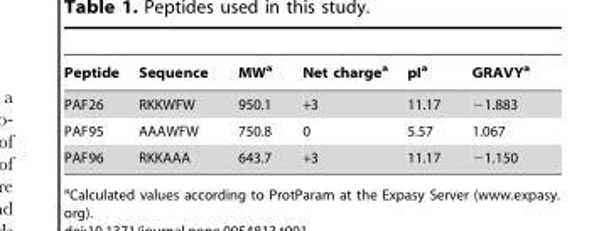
<table><thead><tr><td>Peptide</td><td>Sequence</td><td>MW<sup>a</sup></td><td>Net charge<sup>a</sup></td><td>pI<sup>a</sup></td><td>GRAVY<sup>a</sup></td></tr></thead><tbody><tr><td>PAF26</td><td>RKKWFW</td><td>950.1</td><td>+3</td><td>11.17</td><td>−1.883</td></tr><tr><td>PAF95</td><td>AAAWFW</td><td>750.8</td><td>0</td><td>5.57</td><td>1.067</td></tr><tr><td>PAF96</td><td>RKKAAA</td><td>643.7</td><td>+3</td><td>11.17</td><td>−1.150</td></tr></tbody></table>